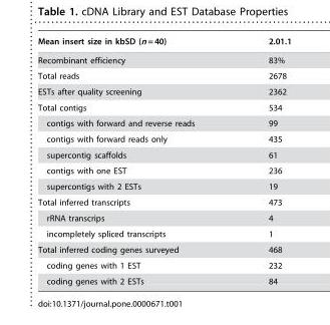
<table><thead><tr><td>Mean insert size in kbSD (n = 40)</td><td>2.01.1</td></tr></thead><tbody><tr><td>Recombinant efficiency</td><td>83%</td></tr><tr><td>Total reads</td><td>2678</td></tr><tr><td>ESTs after quality screening</td><td>2362</td></tr><tr><td>Total contigs</td><td>534</td></tr><tr><td>contigs with forward and reverse reads</td><td>99</td></tr><tr><td>contigs with forward reads only</td><td>435</td></tr><tr><td>supercontig scaffolds</td><td>61</td></tr><tr><td>contigs with one EST</td><td>236</td></tr><tr><td>supercontigs with 2 ESTs</td><td>19</td></tr><tr><td>Total inferred transcripts</td><td>473</td></tr><tr><td>rRNA transcrips</td><td>4</td></tr><tr><td>incompletely spliced transcripts</td><td>1</td></tr><tr><td>Total inferred coding genes surveyed</td><td>468</td></tr><tr><td>coding genes with 1 EST</td><td>232</td></tr><tr><td>coding genes with 2 ESTs</td><td>84</td></tr></tbody></table>